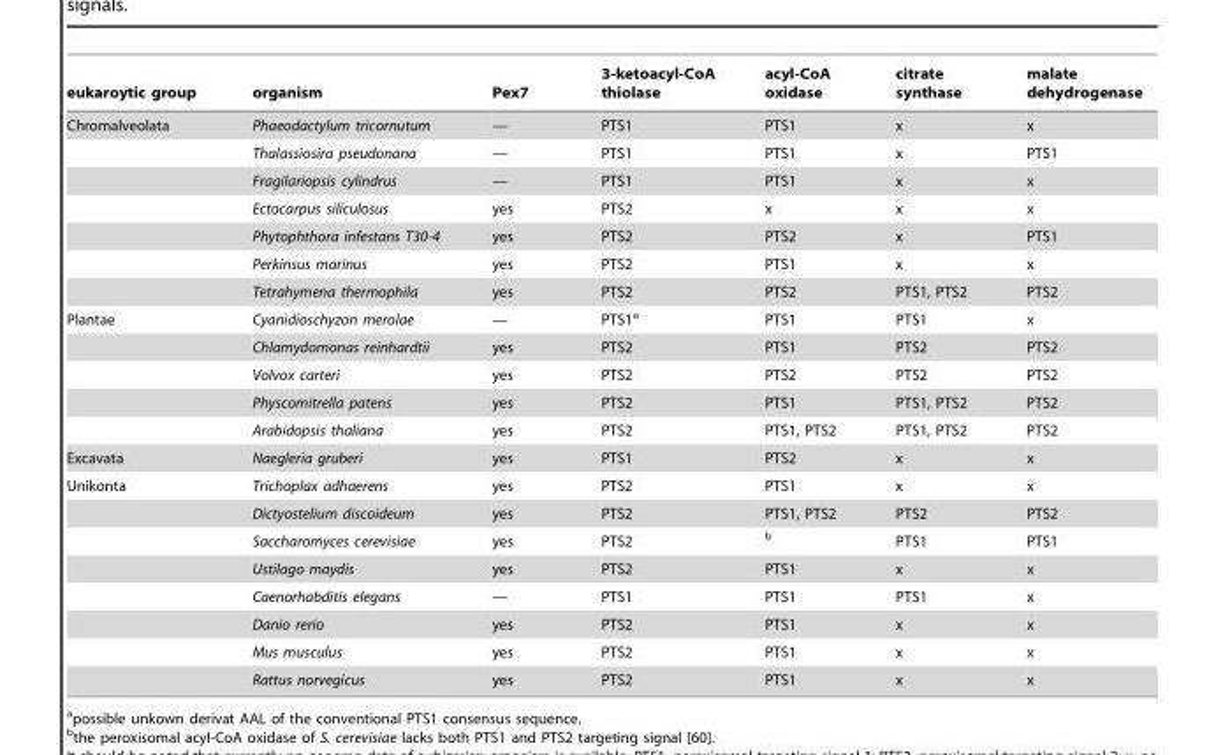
<table><thead><tr><td>eukaroytic group</td><td>organism</td><td>Pex7</td><td>3-ketoacyl-CoA thiolase</td><td>acyl-CoA oxidase</td><td>citrate synthase</td><td>malate dehydrogenase</td></tr></thead><tbody><tr><td rowspan="7">Chromalveolata</td><td>Phaeodactylum tricornutum</td><td>—</td><td>PTS1</td><td>PTS1</td><td>x</td><td>x</td></tr><tr><td>Thalassiosira pseudonana</td><td>—</td><td>PTS1</td><td>PTS1</td><td>x</td><td>PTS1</td></tr><tr><td>Fragilariopsis cylindrus</td><td>—</td><td>PTS1</td><td>PTS1</td><td>x</td><td>x</td></tr><tr><td>Ectocarpus siliculosus</td><td>yes</td><td>PTS2</td><td>x</td><td>x</td><td>x</td></tr><tr><td>Phytophthora infestans T30-4</td><td>yes</td><td>PTS2</td><td>PTS2</td><td>x</td><td>PTS1</td></tr><tr><td>Perkinsus marinus</td><td>yes</td><td>PTS2</td><td>PTS1</td><td>x</td><td>x</td></tr><tr><td>Tetrahymena thermophila</td><td>yes</td><td>PTS2</td><td>PTS2</td><td>PTS1, PTS2</td><td>PTS2</td></tr><tr><td rowspan="5">Plantae</td><td>Cyanidioschyzon merolae</td><td>—</td><td>PTS1<sup>a</sup></td><td>PTS1</td><td>PTS1</td><td>x</td></tr><tr><td>Chlamydomonas reinhardtii</td><td>yes</td><td>PTS2</td><td>PTS1</td><td>PTS2</td><td>PTS2</td></tr><tr><td>Volvox carteri</td><td>yes</td><td>PTS2</td><td>PTS2</td><td>PTS2</td><td>PTS2</td></tr><tr><td>Physcomitrella patens</td><td>yes</td><td>PTS2</td><td>PTS1</td><td>PTS1, PTS2</td><td>PTS2</td></tr><tr><td>Arabidopsis thaliana</td><td>yes</td><td>PTS2</td><td>PTS1, PTS2</td><td>PTS1, PTS2</td><td>PTS2</td></tr><tr><td>Excavata</td><td>Naegleria gruberi</td><td>yes</td><td>PTS1</td><td>PTS2</td><td>x</td><td>x</td></tr><tr><td rowspan="8">Unikonta</td><td>Trichoplax adhaerens</td><td>yes</td><td>PTS2</td><td>PTS1</td><td>x</td><td>x</td></tr><tr><td>Dictyostelium discoideum</td><td>yes</td><td>PTS2</td><td>PTS1, PTS2</td><td>PTS2</td><td>PTS2</td></tr><tr><td>Saccharomyces cerevisiae</td><td>yes</td><td>PTS2</td><td>b</td><td>PTS1</td><td>PTS1</td></tr><tr><td>Ustilago maydis</td><td>yes</td><td>PTS2</td><td>PTS1</td><td>x</td><td>x</td></tr><tr><td>Caenorhabditis elegans</td><td>—</td><td>PTS1</td><td>PTS1</td><td>PTS1</td><td>x</td></tr><tr><td>Danio rerio</td><td>yes</td><td>PTS2</td><td>PTS1</td><td>x</td><td>x</td></tr><tr><td>Mus musculus</td><td>yes</td><td>PTS2</td><td>PTS1</td><td>x</td><td>x</td></tr><tr><td>Rattus norvegicus</td><td>yes</td><td>PTS2</td><td>PTS1</td><td>x</td><td>x</td></tr></tbody></table>